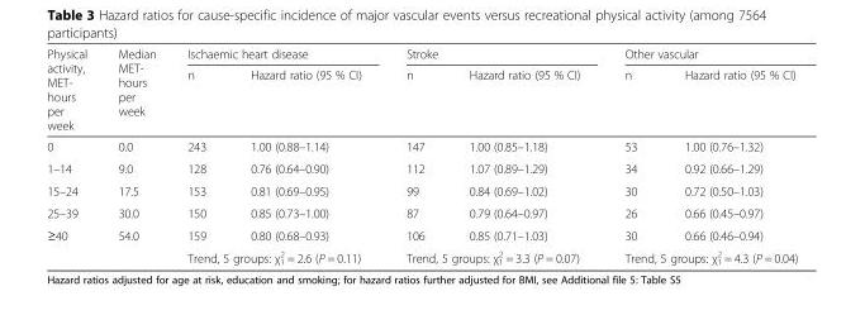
<table><thead><tr><td rowspan="2">Physical activity, MET- hours per week</td><td rowspan="2">Median MET- hours per week</td><td colspan="2">Ischaemic heart disease</td><td colspan="2">Stroke</td><td colspan="2">Other vascular</td></tr><tr><td>n</td><td>Hazard ratio (95 % CI)</td><td>n</td><td>Hazard ratio (95 % CI)</td><td>n</td><td>Hazard ratio (95 % CI)</td></tr></thead><tbody><tr><td>0</td><td>0.0</td><td>243</td><td>1.00 (0.88–1.14)</td><td>147</td><td>1.00 (0.85–1.18)</td><td>53</td><td>1.00 (0.76–1.32)</td></tr><tr><td>1–14</td><td>9.0</td><td>128</td><td>0.76 (0.64–0.90)</td><td>112</td><td>1.07 (0.89–1.29)</td><td>34</td><td>0.92 (0.66–1.29)</td></tr><tr><td>15–24</td><td>17.5</td><td>153</td><td>0.81 (0.69–0.95)</td><td>99</td><td>0.84 (0.69–1.02)</td><td>30</td><td>0.72 (0.50–1.03)</td></tr><tr><td>25–39</td><td>30.0</td><td>150</td><td>0.85 (0.73–1.00)</td><td>87</td><td>0.79 (0.64–0.97)</td><td>26</td><td>0.66 (0.45–0.97)</td></tr><tr><td rowspan="2">≥40</td><td>54.0</td><td>159</td><td>0.80 (0.68–0.93)</td><td>106</td><td>0.85 (0.71–1.03)</td><td>30</td><td>0.66 (0.46–0.94)</td></tr><tr><td></td><td colspan="2">Trend, 5 groups: χ<sup>2</sup> <sub>1</sub> = 2.6 (P = 0.11)</td><td colspan="2">Trend, 5 groups: χ<sup>2</sup> <sub>1</sub> = 3.3 (P = 0.07)</td><td colspan="2">Trend, 5 groups: χ<sup>2</sup> <sub>1</sub> = 4.3 (P = 0.04)</td></tr></tbody></table>